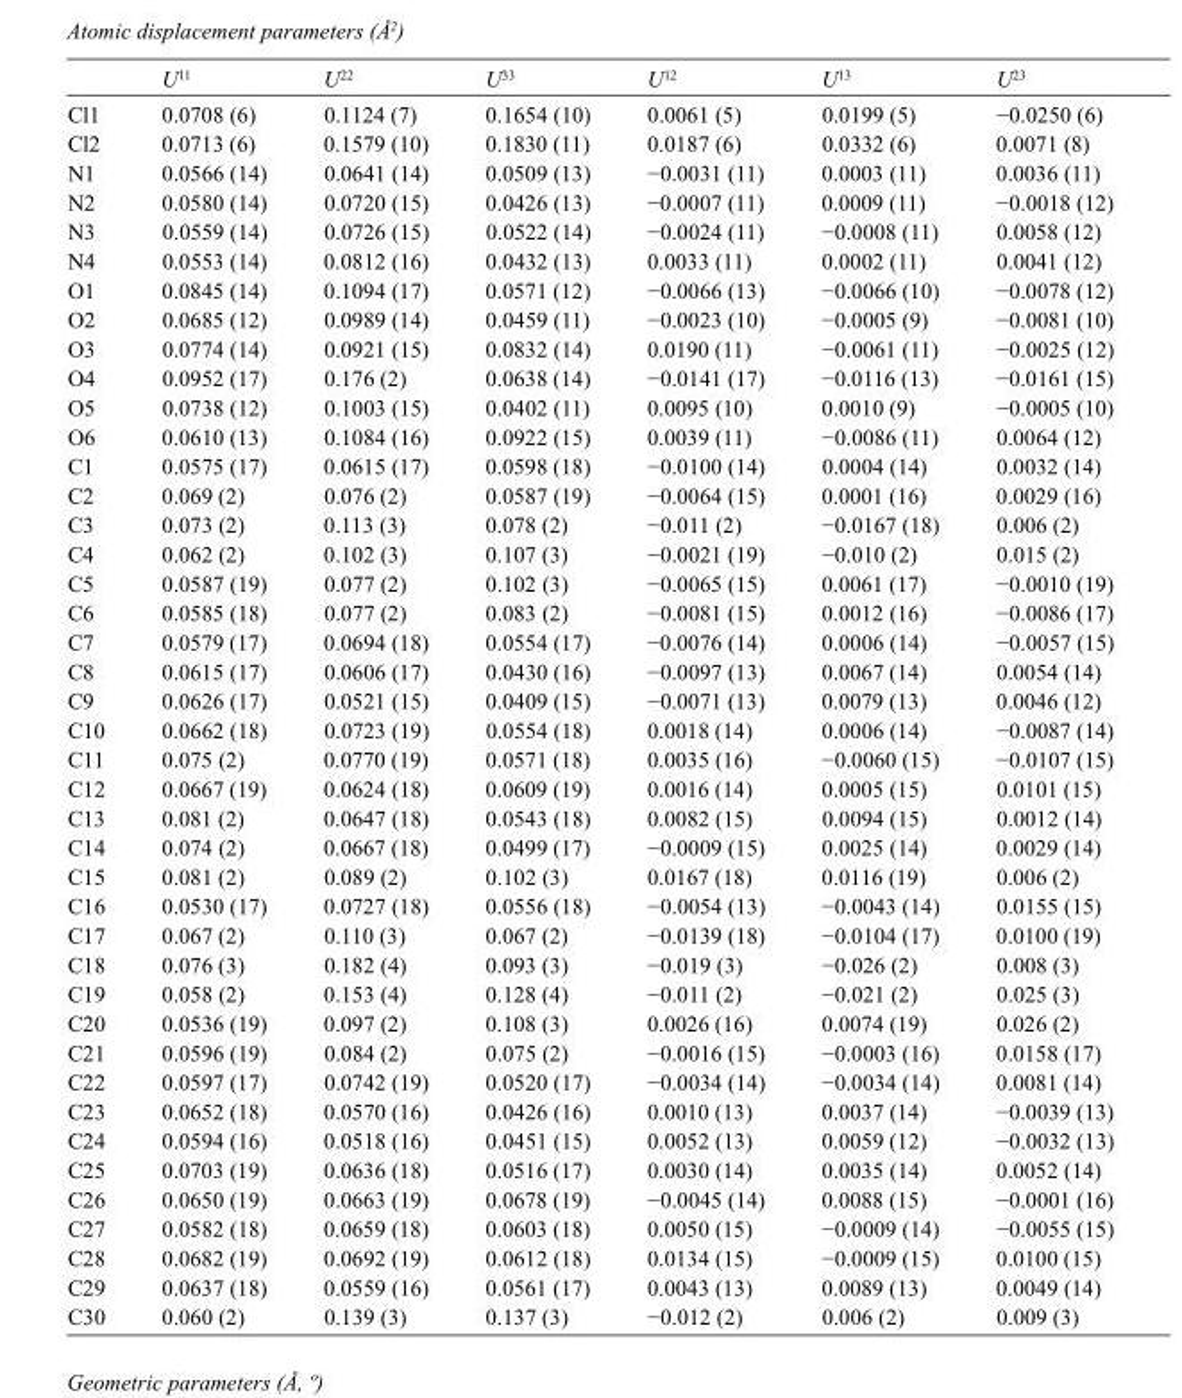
<table><thead><tr><td></td><td>U<sup>11</sup></td><td>U<sup>22</sup></td><td>U<sup>33</sup></td><td>U<sup>12</sup></td><td>U<sup>13</sup></td><td>U<sup>23</sup></td></tr></thead><tbody><tr><td>Cl1</td><td>0.0708 (6)</td><td>0.1124 (7)</td><td>0.1654 (10)</td><td>0.0061 (5)</td><td>0.0199 (5)</td><td>−0.0250 (6)</td></tr><tr><td>Cl2</td><td>0.0713 (6)</td><td>0.1579 (10)</td><td>0.1830 (11)</td><td>0.0187 (6)</td><td>0.0332 (6)</td><td>0.0071 (8)</td></tr><tr><td>N1</td><td>0.0566 (14)</td><td>0.0641 (14)</td><td>0.0509 (13)</td><td>−0.0031 (11)</td><td>0.0003 (11)</td><td>0.0036 (11)</td></tr><tr><td>N2</td><td>0.0580 (14)</td><td>0.0720 (15)</td><td>0.0426 (13)</td><td>−0.0007 (11)</td><td>0.0009 (11)</td><td>−0.0018 (12)</td></tr><tr><td>N3</td><td>0.0559 (14)</td><td>0.0726 (15)</td><td>0.0522 (14)</td><td>−0.0024 (11)</td><td>−0.0008 (11)</td><td>0.0058 (12)</td></tr><tr><td>N4</td><td>0.0553 (14)</td><td>0.0812 (16)</td><td>0.0432 (13)</td><td>0.0033 (11)</td><td>0.0002 (11)</td><td>0.0041 (12)</td></tr><tr><td>O1</td><td>0.0845 (14)</td><td>0.1094 (17)</td><td>0.0571 (12)</td><td>−0.0066 (13)</td><td>−0.0066 (10)</td><td>−0.0078 (12)</td></tr><tr><td>O2</td><td>0.0685 (12)</td><td>0.0989 (14)</td><td>0.0459 (11)</td><td>−0.0023 (10)</td><td>−0.0005 (9)</td><td>−0.0081 (10)</td></tr><tr><td>O3</td><td>0.0774 (14)</td><td>0.0921 (15)</td><td>0.0832 (14)</td><td>0.0190 (11)</td><td>−0.0061 (11)</td><td>−0.0025 (12)</td></tr><tr><td>O4</td><td>0.0952 (17)</td><td>0.176 (2)</td><td>0.0638 (14)</td><td>−0.0141 (17)</td><td>−0.0116 (13)</td><td>−0.0161 (15)</td></tr><tr><td>O5</td><td>0.0738 (12)</td><td>0.1003 (15)</td><td>0.0402 (11)</td><td>0.0095 (10)</td><td>0.0010 (9)</td><td>−0.0005 (10)</td></tr><tr><td>O6</td><td>0.0610 (13)</td><td>0.1084 (16)</td><td>0.0922 (15)</td><td>0.0039 (11)</td><td>−0.0086 (11)</td><td>0.0064 (12)</td></tr><tr><td>C1</td><td>0.0575 (17)</td><td>0.0615 (17)</td><td>0.0598 (18)</td><td>−0.0100 (14)</td><td>0.0004 (14)</td><td>0.0032 (14)</td></tr><tr><td>C2</td><td>0.069 (2)</td><td>0.076 (2)</td><td>0.0587 (19)</td><td>−0.0064 (15)</td><td>0.0001 (16)</td><td>0.0029 (16)</td></tr><tr><td>C3</td><td>0.073 (2)</td><td>0.113 (3)</td><td>0.078 (2)</td><td>−0.011 (2)</td><td>−0.0167 (18)</td><td>0.006 (2)</td></tr><tr><td>C4</td><td>0.062 (2)</td><td>0.102 (3)</td><td>0.107 (3)</td><td>−0.0021 (19)</td><td>−0.010 (2)</td><td>0.015 (2)</td></tr><tr><td>C5</td><td>0.0587 (19)</td><td>0.077 (2)</td><td>0.102 (3)</td><td>−0.0065 (15)</td><td>0.0061 (17)</td><td>−0.0010 (19)</td></tr><tr><td>C6</td><td>0.0585 (18)</td><td>0.077 (2)</td><td>0.083 (2)</td><td>−0.0081 (15)</td><td>0.0012 (16)</td><td>−0.0086 (17)</td></tr><tr><td>C7</td><td>0.0579 (17)</td><td>0.0694 (18)</td><td>0.0554 (17)</td><td>−0.0076 (14)</td><td>0.0006 (14)</td><td>−0.0057 (15)</td></tr><tr><td>C8</td><td>0.0615 (17)</td><td>0.0606 (17)</td><td>0.0430 (16)</td><td>−0.0097 (13)</td><td>0.0067 (14)</td><td>0.0054 (14)</td></tr><tr><td>C9</td><td>0.0626 (17)</td><td>0.0521 (15)</td><td>0.0409 (15)</td><td>−0.0071 (13)</td><td>0.0079 (13)</td><td>0.0046 (12)</td></tr><tr><td>C10</td><td>0.0662 (18)</td><td>0.0723 (19)</td><td>0.0554 (18)</td><td>0.0018 (14)</td><td>0.0006 (14)</td><td>−0.0087 (14)</td></tr><tr><td>C11</td><td>0.075 (2)</td><td>0.0770 (19)</td><td>0.0571 (18)</td><td>0.0035 (16)</td><td>−0.0060 (15)</td><td>−0.0107 (15)</td></tr><tr><td>C12</td><td>0.0667 (19)</td><td>0.0624 (18)</td><td>0.0609 (19)</td><td>0.0016 (14)</td><td>0.0005 (15)</td><td>0.0101 (15)</td></tr><tr><td>C13</td><td>0.081 (2)</td><td>0.0647 (18)</td><td>0.0543 (18)</td><td>0.0082 (15)</td><td>0.0094 (15)</td><td>0.0012 (14)</td></tr><tr><td>C14</td><td>0.074 (2)</td><td>0.0667 (18)</td><td>0.0499 (17)</td><td>−0.0009 (15)</td><td>0.0025 (14)</td><td>0.0029 (14)</td></tr><tr><td>C15</td><td>0.081 (2)</td><td>0.089 (2)</td><td>0.102 (3)</td><td>0.0167 (18)</td><td>0.0116 (19)</td><td>0.006 (2)</td></tr><tr><td>C16</td><td>0.0530 (17)</td><td>0.0727 (18)</td><td>0.0556 (18)</td><td>−0.0054 (13)</td><td>−0.0043 (14)</td><td>0.0155 (15)</td></tr><tr><td>C17</td><td>0.067 (2)</td><td>0.110 (3)</td><td>0.067 (2)</td><td>−0.0139 (18)</td><td>−0.0104 (17)</td><td>0.0100 (19)</td></tr><tr><td>C18</td><td>0.076 (3)</td><td>0.182 (4)</td><td>0.093 (3)</td><td>−0.019 (3)</td><td>−0.026 (2)</td><td>0.008 (3)</td></tr><tr><td>C19</td><td>0.058 (2)</td><td>0.153 (4)</td><td>0.128 (4)</td><td>−0.011 (2)</td><td>−0.021 (2)</td><td>0.025 (3)</td></tr><tr><td>C20</td><td>0.0536 (19)</td><td>0.097 (2)</td><td>0.108 (3)</td><td>0.0026 (16)</td><td>0.0074 (19)</td><td>0.026 (2)</td></tr><tr><td>C21</td><td>0.0596 (19)</td><td>0.084 (2)</td><td>0.075 (2)</td><td>−0.0016 (15)</td><td>−0.0003 (16)</td><td>0.0158 (17)</td></tr><tr><td>C22</td><td>0.0597 (17)</td><td>0.0742 (19)</td><td>0.0520 (17)</td><td>−0.0034 (14)</td><td>−0.0034 (14)</td><td>0.0081 (14)</td></tr><tr><td>C23</td><td>0.0652 (18)</td><td>0.0570 (16)</td><td>0.0426 (16)</td><td>0.0010 (13)</td><td>0.0037 (14)</td><td>−0.0039 (13)</td></tr><tr><td>C24</td><td>0.0594 (16)</td><td>0.0518 (16)</td><td>0.0451 (15)</td><td>0.0052 (13)</td><td>0.0059 (12)</td><td>−0.0032 (13)</td></tr><tr><td>C25</td><td>0.0703 (19)</td><td>0.0636 (18)</td><td>0.0516 (17)</td><td>0.0030 (14)</td><td>0.0035 (14)</td><td>0.0052 (14)</td></tr><tr><td>C26</td><td>0.0650 (19)</td><td>0.0663 (19)</td><td>0.0678 (19)</td><td>−0.0045 (14)</td><td>0.0088 (15)</td><td>−0.0001 (16)</td></tr><tr><td>C27</td><td>0.0582 (18)</td><td>0.0659 (18)</td><td>0.0603 (18)</td><td>0.0050 (15)</td><td>−0.0009 (14)</td><td>−0.0055 (15)</td></tr><tr><td>C28</td><td>0.0682 (19)</td><td>0.0692 (19)</td><td>0.0612 (18)</td><td>0.0134 (15)</td><td>−0.0009 (15)</td><td>0.0100 (15)</td></tr><tr><td>C29</td><td>0.0637 (18)</td><td>0.0559 (16)</td><td>0.0561 (17)</td><td>0.0043 (13)</td><td>0.0089 (13)</td><td>0.0049 (14)</td></tr><tr><td>C30</td><td>0.060 (2)</td><td>0.139 (3)</td><td>0.137 (3)</td><td>−0.012 (2)</td><td>0.006 (2)</td><td>0.009 (3)</td></tr></tbody></table>